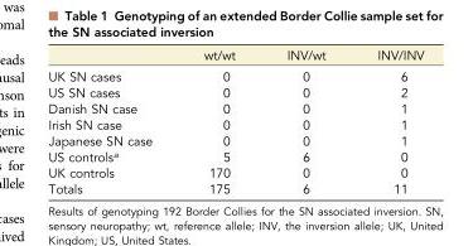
<table><thead><tr><td></td><td>wt/wt</td><td>INV/wt</td><td>INV/INV</td></tr></thead><tbody><tr><td>UK SN cases</td><td>0</td><td>0</td><td>6</td></tr><tr><td>US SN cases</td><td>0</td><td>0</td><td>2</td></tr><tr><td>Danish SN case</td><td>0</td><td>0</td><td>1</td></tr><tr><td>Irish SN case</td><td>0</td><td>0</td><td>1</td></tr><tr><td>Japanese SN case</td><td>0</td><td>0</td><td>1</td></tr><tr><td>US controls<sup>a</sup></td><td>5</td><td>6</td><td>0</td></tr><tr><td>UK controls</td><td>170</td><td>0</td><td>0</td></tr><tr><td>Totals</td><td>175</td><td>6</td><td>11</td></tr></tbody></table>